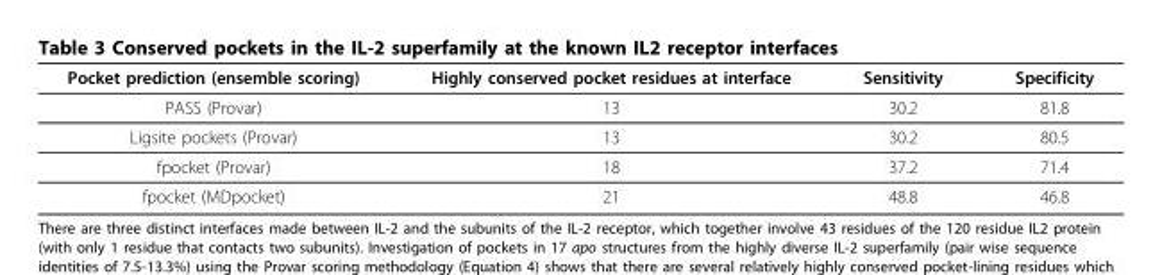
<table><thead><tr><td>Pocket prediction (ensemble scoring)</td><td>Highly conserved pocket residues at interface</td><td>Sensitivity</td><td>Specificity</td></tr></thead><tbody><tr><td>PASS (Provar)</td><td>13</td><td>30.2</td><td>81.8</td></tr><tr><td>Ligsite pockets (Provar)</td><td>13</td><td>30.2</td><td>80.5</td></tr><tr><td>fpocket (Provar)</td><td>18</td><td>37.2</td><td>71.4</td></tr><tr><td>fpocket (MDpocket)</td><td>21</td><td>48.8</td><td>46.8</td></tr></tbody></table>